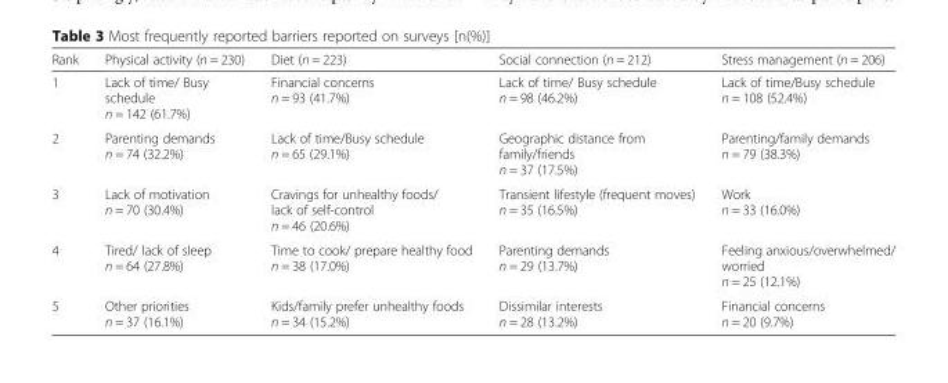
<table><thead><tr><td>Rank</td><td>Physical activity (n = 230)</td><td>Diet (n = 223)</td><td>Social connection (n = 212)</td><td>Stress management (n = 206)</td></tr></thead><tbody><tr><td>1</td><td>Lack of time/ Busy schedule n = 142 (61.7%)</td><td>Financial concerns n = 93 (41.7%)</td><td>Lack of time/ Busy schedule n = 98 (46.2%)</td><td>Lack of time/Busy schedule n = 108 (52.4%)</td></tr><tr><td>2</td><td>Parenting demands n = 74 (32.2%)</td><td>Lack of time/Busy schedule n = 65 (29.1%)</td><td>Geographic distance from family/friends n = 37 (17.5%)</td><td>Parenting/family demands n = 79 (38.3%)</td></tr><tr><td>3</td><td>Lack of motivation n = 70 (30.4%)</td><td>Cravings for unhealthy foods/ lack of self-control n = 46 (20.6%)</td><td>Transient lifestyle (frequent moves) n = 35 (16.5%)</td><td>Work n = 33 (16.0%)</td></tr><tr><td>4</td><td>Tired/ lack of sleep n = 64 (27.8%)</td><td>Time to cook/ prepare healthy food n = 38 (17.0%)</td><td>Parenting demands n = 29 (13.7%)</td><td>Feeling anxious/overwhelmed/ worried n = 25 (12.1%)</td></tr><tr><td>5</td><td>Other priorities n = 37 (16.1%)</td><td>Kids/family prefer unhealthy foods n = 34 (15.2%)</td><td>Dissimilar interests n = 28 (13.2%)</td><td>Financial concerns n = 20 (9.7%)</td></tr></tbody></table>